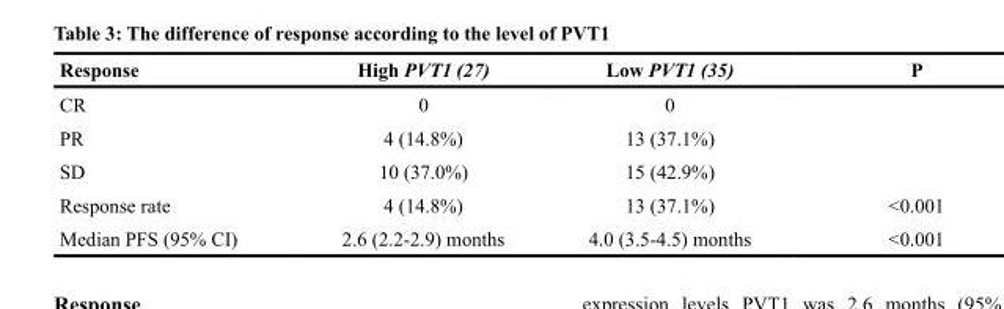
<table><thead><tr><td>Response</td><td>High PVT1 (27)</td><td>Low PVT1 (35)</td><td>P</td></tr></thead><tbody><tr><td>CR</td><td>0</td><td>0</td><td></td></tr><tr><td>PR</td><td>4 (14.8%)</td><td>13 (37.1%)</td><td></td></tr><tr><td>SD</td><td>10 (37.0%)</td><td>15 (42.9%)</td><td></td></tr><tr><td>Response rate</td><td>4 (14.8%)</td><td>13 (37.1%)</td><td>&lt;0.001</td></tr><tr><td>Median PFS (95% CI)</td><td>2.6 (2.2-2.9) months</td><td>4.0 (3.5-4.5) months</td><td>&lt;0.001</td></tr></tbody></table>